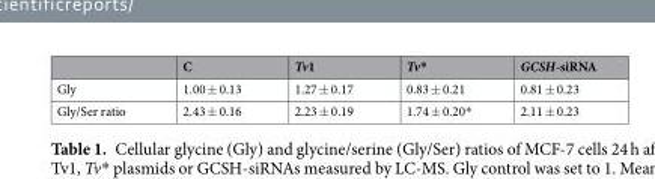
<table><thead><tr><td></td><td>C</td><td>Tv1</td><td>Tv*</td><td>GCSH-siRNA</td></tr></thead><tbody><tr><td>Gly</td><td>1.00 ± 0.13</td><td>1.27 ± 0.17</td><td>0.83 ± 0.21</td><td>0.81 ± 0.23</td></tr><tr><td>Gly/Ser ratio</td><td>2.43 ± 0.16</td><td>2.23 ± 0.19</td><td>1.74 ± 0.20*</td><td>2.11 ± 0.23</td></tr></tbody></table>